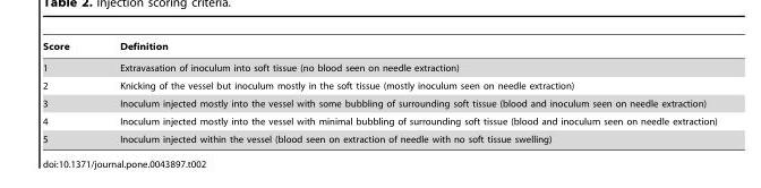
<table><thead><tr><td>Score</td><td>Definition</td></tr></thead><tbody><tr><td>1</td><td>Extravasation of inoculum into soft tissue (no blood seen on needle extraction)</td></tr><tr><td>2</td><td>Knicking of the vessel but inoculum mostly in the soft tissue (mostly inoculum seen on needle extraction)</td></tr><tr><td>3</td><td>Inoculum injected mostly into the vessel with some bubbling of surrounding soft tissue (blood and inoculum seen on needle extraction)</td></tr><tr><td>4</td><td>Inoculum injected mostly into the vessel with minimal bubbling of surrounding soft tissue (blood and inoculum seen on needle extraction)</td></tr><tr><td>5</td><td>Inoculum injected within the vessel (blood seen on extraction of needle with no soft tissue swelling)</td></tr></tbody></table>